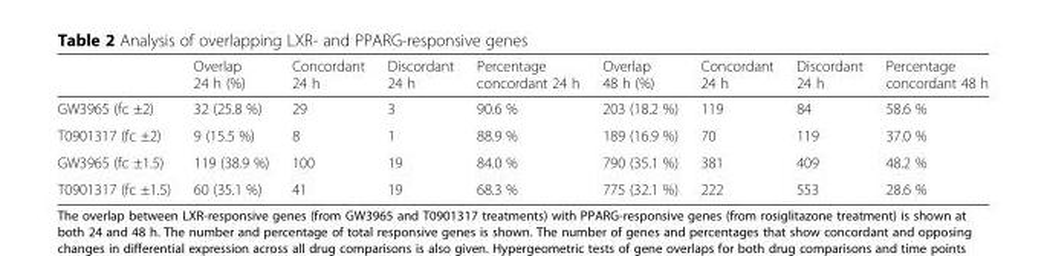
<table><thead><tr><td></td><td>Overlap 24 h (%)</td><td>Concordant 24 h</td><td>Discordant 24 h</td><td>Percentage concordant 24 h</td><td>Overlap 48 h (%)</td><td>Concordant 24 h</td><td>Discordant 24 h</td><td>Percentage concordant 48 h</td></tr></thead><tbody><tr><td>GW3965 (fc ±2)</td><td>32 (25.8 %)</td><td>29</td><td>3</td><td>90.6 %</td><td>203 (18.2 %)</td><td>119</td><td>84</td><td>58.6 %</td></tr><tr><td>T0901317 (fc ±2)</td><td>9 (15.5 %)</td><td>8</td><td>1</td><td>88.9 %</td><td>189 (16.9 %)</td><td>70</td><td>119</td><td>37.0 %</td></tr><tr><td>GW3965 (fc ±1.5)</td><td>119 (38.9 %)</td><td>100</td><td>19</td><td>84.0 %</td><td>790 (35.1 %)</td><td>381</td><td>409</td><td>48.2 %</td></tr><tr><td>T0901317 (fc ±1.5)</td><td>60 (35.1 %)</td><td>41</td><td>19</td><td>68.3 %</td><td>775 (32.1 %)</td><td>222</td><td>553</td><td>28.6 %</td></tr></tbody></table>